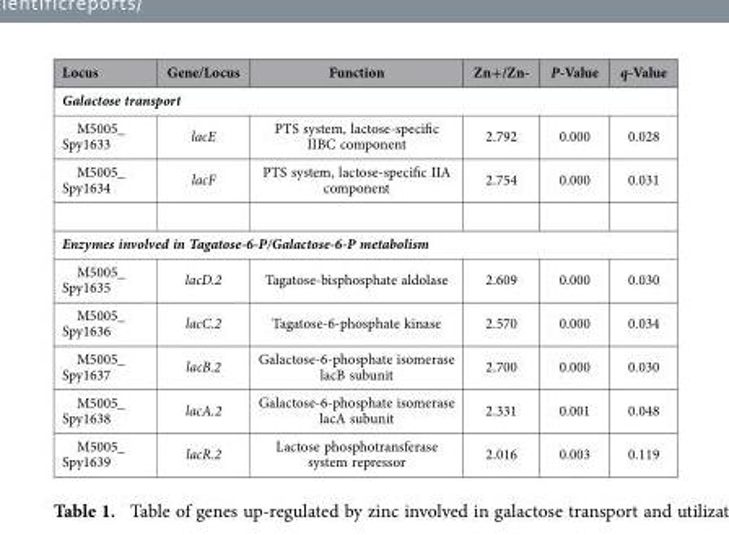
<table><thead><tr><td>Locus</td><td>Gene/Locus</td><td>Function</td><td>Zn+/Zn-</td><td>P-Value</td><td>q-Value</td></tr></thead><tbody><tr><td colspan="6">Galactose transport</td></tr><tr><td>M5005_ Spy1633</td><td>lacE</td><td>PTS system, lactose-specific IIBC component</td><td>2.792</td><td>0.000</td><td>0.028</td></tr><tr><td>M5005_ Spy1634</td><td>lacF</td><td>PTS system, lactose-specific IIA component</td><td>2.754</td><td>0.000</td><td>0.031</td></tr><tr><td colspan="6">Enzymes involved in Tagatose-6-P/Galactose-6-P metabolism</td></tr><tr><td>M5005_ Spy1635</td><td>lacD.2</td><td>Tagatose-bisphosphate aldolase</td><td>2.609</td><td>0.000</td><td>0.030</td></tr><tr><td>M5005_ Spy1636</td><td>lacC.2</td><td>Tagatose-6-phosphate kinase</td><td>2.570</td><td>0.000</td><td>0.034</td></tr><tr><td>M5005_ Spy1637</td><td>lacB.2</td><td>Galactose-6-phosphate isomerase lacB subunit</td><td>2.700</td><td>0.000</td><td>0.030</td></tr><tr><td>M5005_ Spy1638</td><td>lacA.2</td><td>Galactose-6-phosphate isomerase lacA subunit</td><td>2.331</td><td>0.001</td><td>0.048</td></tr><tr><td>M5005_ Spy1639</td><td>lacR.2</td><td>Lactose phosphotransferase system repressor</td><td>2.016</td><td>0.003</td><td>0.119</td></tr></tbody></table>